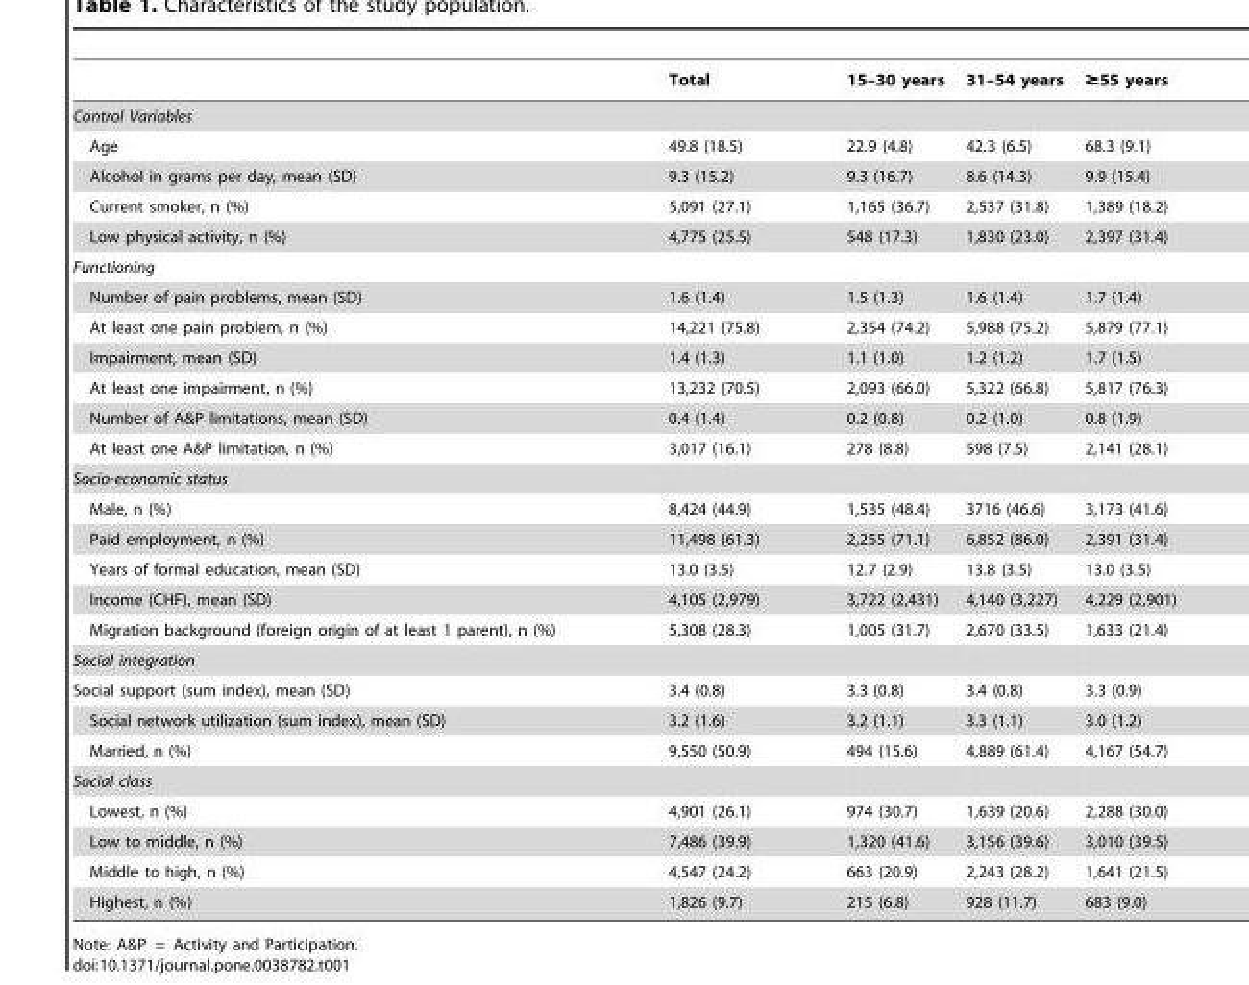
<table><thead><tr><td></td><td>Total</td><td>15–30 years</td><td>31–54 years</td><td>≥55 years</td></tr></thead><tbody><tr><td colspan="5">Control Variables</td></tr><tr><td>Age</td><td>49.8 (18.5)</td><td>22.9 (4.8)</td><td>42.3 (6.5)</td><td>68.3 (9.1)</td></tr><tr><td>Alcohol in grams per day, mean (SD)</td><td>9.3 (15.2)</td><td>9.3 (16.7)</td><td>8.6 (14.3)</td><td>9.9 (15.4)</td></tr><tr><td>Current smoker, n (%)</td><td>5,091 (27.1)</td><td>1,165 (36.7)</td><td>2,537 (31.8)</td><td>1,389 (18.2)</td></tr><tr><td>Low physical activity, n (%)</td><td>4,775 (25.5)</td><td>548 (17.3)</td><td>1,830 (23.0)</td><td>2,397 (31.4)</td></tr><tr><td colspan="5">Functioning</td></tr><tr><td>Number of pain problems, mean (SD)</td><td>1.6 (1.4)</td><td>1.5 (1.3)</td><td>1.6 (1.4)</td><td>1.7 (1.4)</td></tr><tr><td>At least one pain problem, n (%)</td><td>14,221 (75.8)</td><td>2,354 (74.2)</td><td>5,988 (75.2)</td><td>5,879 (77.1)</td></tr><tr><td>Impairment, mean (SD)</td><td>1.4 (1.3)</td><td>1.1 (1.0)</td><td>1.2 (1.2)</td><td>1.7 (1.5)</td></tr><tr><td>At least one impairment, n (%)</td><td>13,232 (70.5)</td><td>2,093 (66.0)</td><td>5,322 (66.8)</td><td>5,817 (76.3)</td></tr><tr><td>Number of A&amp;P limitations, mean (SD)</td><td>0.4 (1.4)</td><td>0.2 (0.8)</td><td>0.2 (1.0)</td><td>0.8 (1.9)</td></tr><tr><td>At least one A&amp;P limitation, n (%)</td><td>3,017 (16.1)</td><td>278 (8.8)</td><td>598 (7.5)</td><td>2,141 (28.1)</td></tr><tr><td colspan="5">Socio-economic status</td></tr><tr><td>Male, n (%)</td><td>8,424 (44.9)</td><td>1,535 (48.4)</td><td>3716 (46.6)</td><td>3,173 (41.6)</td></tr><tr><td>Paid employment, n (%)</td><td>11,498 (61.3)</td><td>2,255 (71.1)</td><td>6,852 (86.0)</td><td>2,391 (31.4)</td></tr><tr><td>Years of formal education, mean (SD)</td><td>13.0 (3.5)</td><td>12.7 (2.9)</td><td>13.8 (3.5)</td><td>13.0 (3.5)</td></tr><tr><td>Income (CHF), mean (SD)</td><td>4,105 (2,979)</td><td>3,722 (2,431)</td><td>4,140 (3,227)</td><td>4,229 (2,901)</td></tr><tr><td>Migration background (foreign origin of at least 1 parent), n (%)</td><td>5,308 (28.3)</td><td>1,005 (31.7)</td><td>2,670 (33.5)</td><td>1,633 (21.4)</td></tr><tr><td colspan="5">Social integration</td></tr><tr><td>Social support (sum index), mean (SD)</td><td>3.4 (0.8)</td><td>3.3 (0.8)</td><td>3.4 (0.8)</td><td>3.3 (0.9)</td></tr><tr><td>Social network utilization (sum index), mean (SD)</td><td>3.2 (1.6)</td><td>3.2 (1.1)</td><td>3.3 (1.1)</td><td>3.0 (1.2)</td></tr><tr><td>Married, n (%)</td><td>9,550 (50.9)</td><td>494 (15.6)</td><td>4,889 (61.4)</td><td>4,167 (54.7)</td></tr><tr><td colspan="5">Social class</td></tr><tr><td>Lowest, n (%)</td><td>4,901 (26.1)</td><td>974 (30.7)</td><td>1,639 (20.6)</td><td>2,288 (30.0)</td></tr><tr><td>Low to middle, n (%)</td><td>7,486 (39.9)</td><td>1,320 (41.6)</td><td>3,156 (39.6)</td><td>3,010 (39.5)</td></tr><tr><td>Middle to high, n (%)</td><td>4,547 (24.2)</td><td>663 (20.9)</td><td>2,243 (28.2)</td><td>1,641 (21.5)</td></tr><tr><td>Highest, n (%)</td><td>1,826 (9.7)</td><td>215 (6.8)</td><td>928 (11.7)</td><td>683 (9.0)</td></tr></tbody></table>